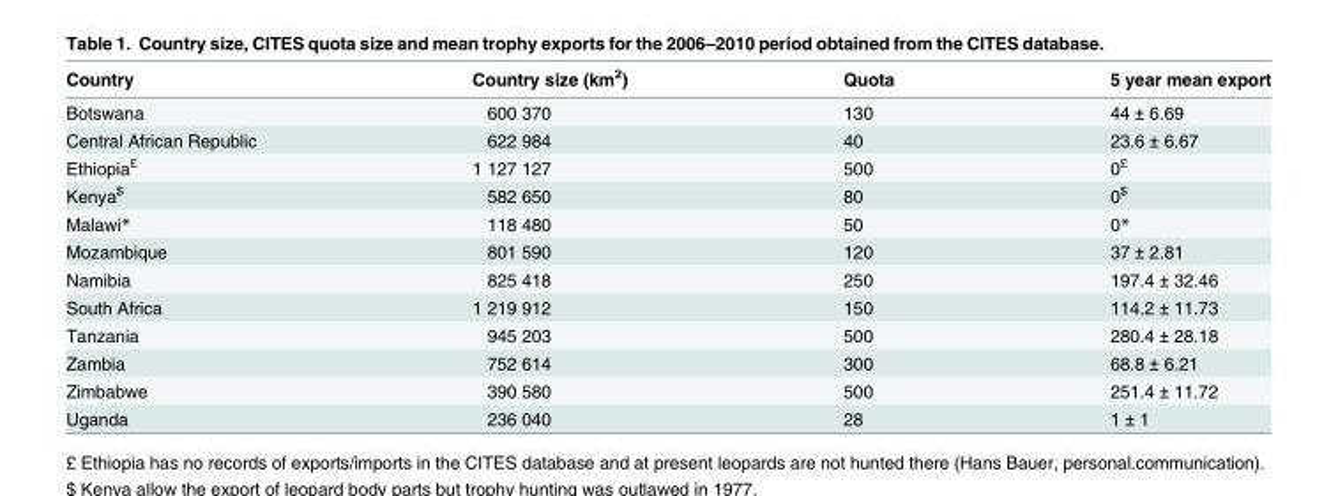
<table><thead><tr><td>Country</td><td>Country size (km<sup>2</sup>)</td><td>Quota</td><td>5 year mean export</td></tr></thead><tbody><tr><td>Botswana</td><td>600 370</td><td>130</td><td>44 ± 6.69</td></tr><tr><td>Central African Republic</td><td>622 984</td><td>40</td><td>23.6 ± 6.67</td></tr><tr><td>Ethiopia<sup>£</sup></td><td>1 127 127</td><td>500</td><td>0<sup>£</sup></td></tr><tr><td>Kenya<sup>$</sup></td><td>582 650</td><td>80</td><td>0<sup>$</sup></td></tr><tr><td>Malawi*</td><td>118 480</td><td>50</td><td>0*</td></tr><tr><td>Mozambique</td><td>801 590</td><td>120</td><td>37 ± 2.81</td></tr><tr><td>Namibia</td><td>825 418</td><td>250</td><td>197.4 ± 32.46</td></tr><tr><td>South Africa</td><td>1 219 912</td><td>150</td><td>114.2 ± 11.73</td></tr><tr><td>Tanzania</td><td>945 203</td><td>500</td><td>280.4 ± 28.18</td></tr><tr><td>Zambia</td><td>752 614</td><td>300</td><td>68.8 ± 6.21</td></tr><tr><td>Zimbabwe</td><td>390 580</td><td>500</td><td>251.4 ± 11.72</td></tr><tr><td>Uganda</td><td>236 040</td><td>28</td><td>1 ± 1</td></tr></tbody></table>